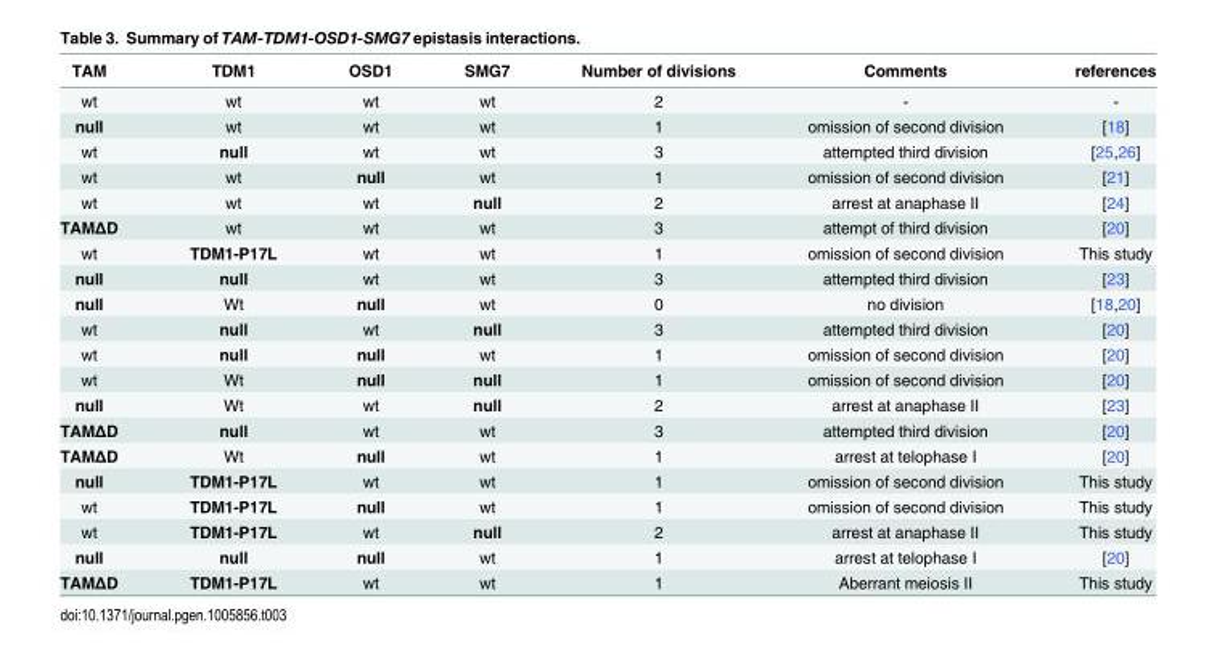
<table><thead><tr><td>TAM</td><td>TDM1</td><td>OSD1</td><td>SMG7</td><td>Number of divisions</td><td>Comments</td><td>references</td></tr></thead><tbody><tr><td>wt</td><td>wt</td><td>wt</td><td>wt</td><td>2</td><td>-</td><td>-</td></tr><tr><td>null</td><td>wt</td><td>wt</td><td>wt</td><td>1</td><td>omission of second division</td><td>[18]</td></tr><tr><td>wt</td><td>null</td><td>wt</td><td>wt</td><td>3</td><td>attempted third division</td><td>[25,26]</td></tr><tr><td>wt</td><td>wt</td><td>null</td><td>wt</td><td>1</td><td>omission of second division</td><td>[21]</td></tr><tr><td>wt</td><td>wt</td><td>wt</td><td>null</td><td>2</td><td>arrest at anaphase II</td><td>[24]</td></tr><tr><td>TAMΔD</td><td>wt</td><td>wt</td><td>wt</td><td>3</td><td>attempt of third division</td><td>[20]</td></tr><tr><td>wt</td><td>TDM1-P17L</td><td>wt</td><td>wt</td><td>1</td><td>omission of second division</td><td>This study</td></tr><tr><td>null</td><td>null</td><td>wt</td><td>wt</td><td>3</td><td>attempted third division</td><td>[23]</td></tr><tr><td>null</td><td>Wt</td><td>null</td><td>wt</td><td>0</td><td>no division</td><td>[18,20]</td></tr><tr><td>wt</td><td>null</td><td>wt</td><td>null</td><td>3</td><td>attempted third division</td><td>[20]</td></tr><tr><td>wt</td><td>null</td><td>null</td><td>wt</td><td>1</td><td>omission of second division</td><td>[20]</td></tr><tr><td>wt</td><td>Wt</td><td>null</td><td>null</td><td>1</td><td>omission of second division</td><td>[20]</td></tr><tr><td>null</td><td>Wt</td><td>wt</td><td>null</td><td>2</td><td>arrest at anaphase II</td><td>[23]</td></tr><tr><td>TAMΔD</td><td>null</td><td>wt</td><td>wt</td><td>3</td><td>attempted third division</td><td>[20]</td></tr><tr><td>TAMΔD</td><td>Wt</td><td>null</td><td>wt</td><td>1</td><td>arrest at telophase I</td><td>[20]</td></tr><tr><td>null</td><td>TDM1-P17L</td><td>wt</td><td>wt</td><td>1</td><td>omission of second division</td><td>This study</td></tr><tr><td>wt</td><td>TDM1-P17L</td><td>null</td><td>wt</td><td>1</td><td>omission of second division</td><td>This study</td></tr><tr><td>wt</td><td>TDM1-P17L</td><td>wt</td><td>null</td><td>2</td><td>arrest at anaphase II</td><td>This study</td></tr><tr><td>null</td><td>null</td><td>null</td><td>wt</td><td>1</td><td>arrest at telophase I</td><td>[20]</td></tr><tr><td>TAMΔD</td><td>TDM1-P17L</td><td>wt</td><td>wt</td><td>1</td><td>Aberrant meiosis II</td><td>This study</td></tr></tbody></table>